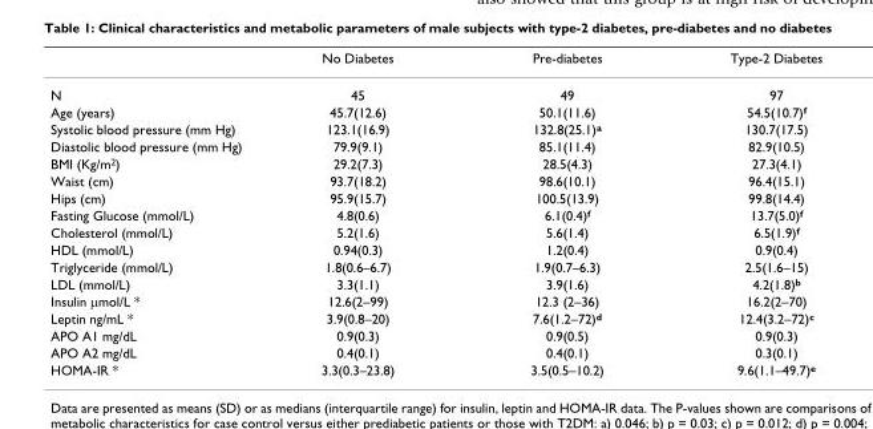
<table><thead><tr><td></td><td>No Diabetes</td><td>Pre-diabetes</td><td>Type-2 Diabetes</td></tr></thead><tbody><tr><td>N</td><td>45</td><td>49</td><td>97</td></tr><tr><td>Age (years)</td><td>45.7(12.6)</td><td>50.1(11.6)</td><td>54.5(10.7)<sup>f</sup></td></tr><tr><td>Systolic blood pressure (mm Hg)</td><td>123.1(16.9)</td><td>132.8(25.1)<sup>a</sup></td><td>130.7(17.5)</td></tr><tr><td>Diastolic blood pressure (mm Hg)</td><td>79.9(9.1)</td><td>85.1(11.4)</td><td>82.9(10.5)</td></tr><tr><td>BMI (Kg/m<sup>2</sup>)</td><td>29.2(7.3)</td><td>28.5(4.3)</td><td>27.3(4.1)</td></tr><tr><td>Waist (cm)</td><td>93.7(18.2)</td><td>98.6(10.1)</td><td>96.4(15.1)</td></tr><tr><td>Hips (cm)</td><td>95.9(15.7)</td><td>100.5(13.9)</td><td>99.8(14.4)</td></tr><tr><td>Fasting Glucose (mmol/L)</td><td>4.8(0.6)</td><td>6.1(0.4)<sup>f</sup></td><td>13.7(5.0)<sup>f</sup></td></tr><tr><td>Cholesterol (mmol/L)</td><td>5.2(1.6)</td><td>5.6(1.4)</td><td>6.5(1.9)<sup>f</sup></td></tr><tr><td>HDL (mmol/L)</td><td>0.94(0.3)</td><td>1.2(0.4)</td><td>0.9(0.4)</td></tr><tr><td>Triglyceride (mmol/L)</td><td>1.8(0.6–6.7)</td><td>1.9(0.7–6.3)</td><td>2.5(1.6–15)</td></tr><tr><td>LDL (mmol/L)</td><td>3.3(1.1)</td><td>3.9(1.6)</td><td>4.2(1.8)<sup>b</sup></td></tr><tr><td>Insulin μmol/L *</td><td>12.6(2–99)</td><td>12.3 (2–36)</td><td>16.2(2–70)</td></tr><tr><td>Leptin ng/mL *</td><td>3.9(0.8–20)</td><td>7.6(1.2–72)<sup>d</sup></td><td>12.4(3.2–72)<sup>c</sup></td></tr><tr><td>APO A1 mg/dL</td><td>0.9(0.3)</td><td>0.9(0.5)</td><td>0.9(0.3)</td></tr><tr><td>APO A2 mg/dL</td><td>0.4(0.1)</td><td>0.4(0.1)</td><td>0.3(0.1)</td></tr><tr><td>HOMA-IR *</td><td>3.3(0.3–23.8)</td><td>3.5(0.5–10.2)</td><td>9.6(1.1–49.7)<sup>e</sup></td></tr></tbody></table>